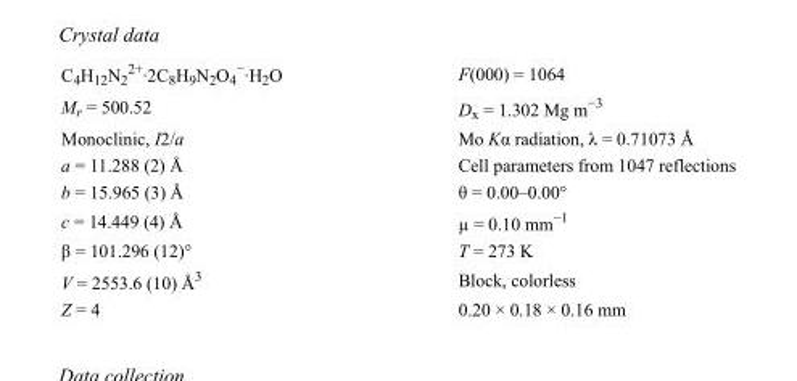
<table><tbody><tr><td>C<sub>4</sub>H<sub>12</sub>N<sub>2</sub> <sup>2+</sup>·2C<sub>8</sub>H<sub>9</sub>N<sub>2</sub>O<sub>4</sub> <sup>−</sup>·H<sub>2</sub>O</td><td>F(000) = 1064</td></tr><tr><td>M<sub>r</sub> = 500.52</td><td>D<sub>x</sub> = 1.302 Mg m<sup>−3</sup></td></tr><tr><td>Monoclinic, I2/a</td><td>Mo Kα radiation, λ = 0.71073 Å</td></tr><tr><td>a = 11.288 (2) Å</td><td>Cell parameters from 1047 reflections</td></tr><tr><td>b = 15.965 (3) Å</td><td>θ = 0.00–0.00°</td></tr><tr><td>c = 14.449 (4) Å</td><td>µ = 0.10 mm<sup>−1</sup></td></tr><tr><td>β = 101.296 (12)°</td><td>T = 273 K</td></tr><tr><td>V = 2553.6 (10) Å<sup>3</sup></td><td>Block, colorless</td></tr><tr><td>Z = 4</td><td>0.20 × 0.18 × 0.16 mm</td></tr></tbody></table>